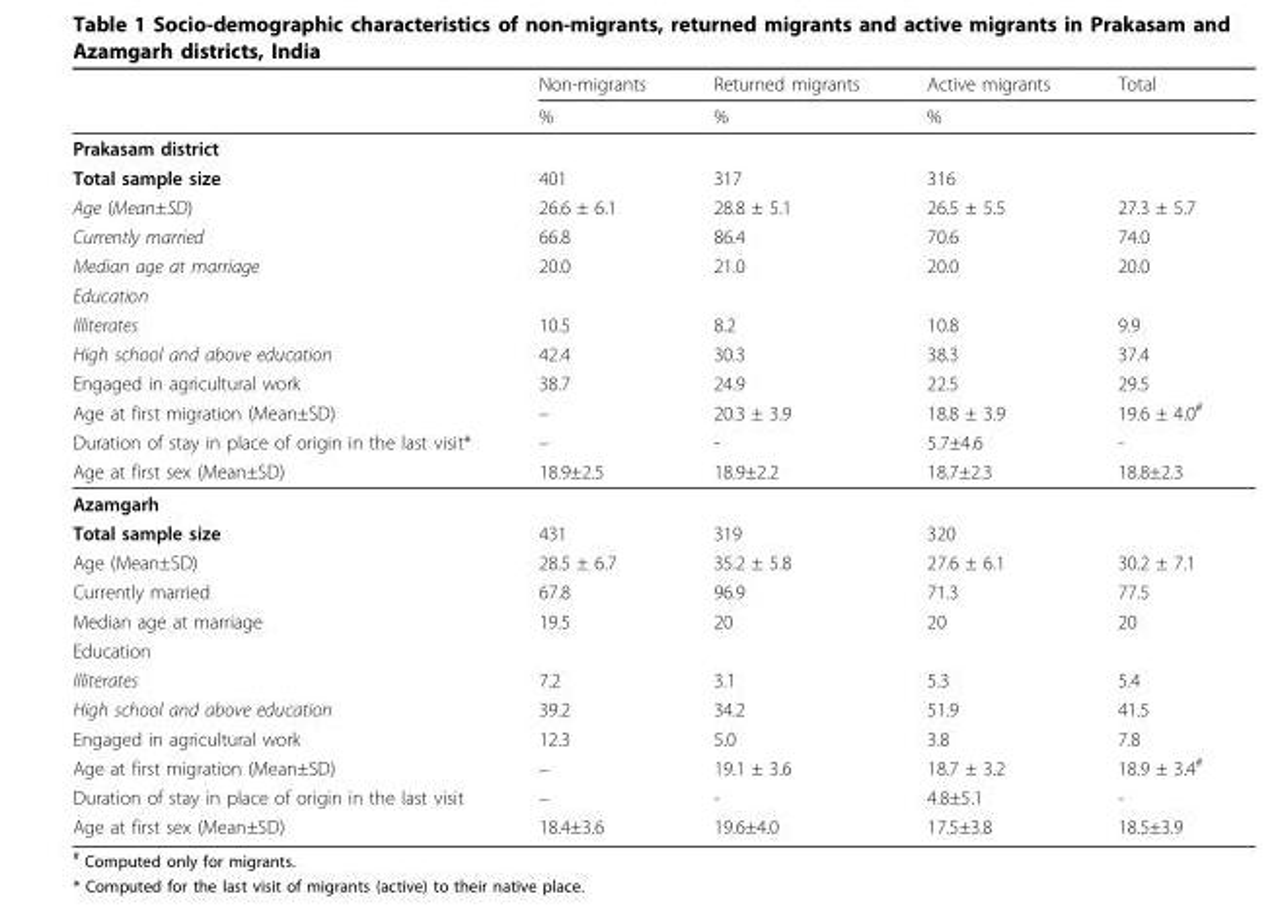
<table><thead><tr><td rowspan="2"></td><td rowspan="2">Non-migrants %</td><td rowspan="2">Returned migrants %</td><td rowspan="2">Active migrants %</td><td rowspan="2">Total</td></tr><tr></tr></thead><tbody><tr><td colspan="5">Prakasam district</td></tr><tr><td>Total sample size</td><td>401</td><td>317</td><td>316</td><td></td></tr><tr><td>Age (Mean±SD)</td><td>26.6 ± 6.1</td><td>28.8 ± 5.1</td><td>26.5 ± 5.5</td><td>27.3 ± 5.7</td></tr><tr><td>Currently married</td><td>66.8</td><td>86.4</td><td>70.6</td><td>74.0</td></tr><tr><td>Median age at marriage</td><td>20.0</td><td>21.0</td><td>20.0</td><td>20.0</td></tr><tr><td colspan="5">Education</td></tr><tr><td>Illiterates</td><td>10.5</td><td>8.2</td><td>10.8</td><td>9.9</td></tr><tr><td>High school and above education</td><td>42.4</td><td>30.3</td><td>38.3</td><td>37.4</td></tr><tr><td>Engaged in agricultural work</td><td>38.7</td><td>24.9</td><td>22.5</td><td>29.5</td></tr><tr><td>Age at first migration (Mean±SD)</td><td>–</td><td>20.3 ± 3.9</td><td>18.8 ± 3.9</td><td>19.6 ± 4.0<sup>#</sup></td></tr><tr><td>Duration of stay in place of origin in the last visit*</td><td>–</td><td>-</td><td>5.7±4.6</td><td>-</td></tr><tr><td>Age at first sex (Mean±SD)</td><td>18.9±2.5</td><td>18.9±2.2</td><td>18.7±2.3</td><td>18.8±2.3</td></tr><tr><td colspan="5">Azamgarh</td></tr><tr><td>Total sample size</td><td>431</td><td>319</td><td>320</td><td></td></tr><tr><td>Age (Mean±SD)</td><td>28.5 ± 6.7</td><td>35.2 ± 5.8</td><td>27.6 ± 6.1</td><td>30.2 ± 7.1</td></tr><tr><td>Currently married</td><td>67.8</td><td>96.9</td><td>71.3</td><td>77.5</td></tr><tr><td>Median age at marriage</td><td>19.5</td><td>20</td><td>20</td><td>20</td></tr><tr><td colspan="5">Education</td></tr><tr><td>Illiterates</td><td>7.2</td><td>3.1</td><td>5.3</td><td>5.4</td></tr><tr><td>High school and above education</td><td>39.2</td><td>34.2</td><td>51.9</td><td>41.5</td></tr><tr><td>Engaged in agricultural work</td><td>12.3</td><td>5.0</td><td>3.8</td><td>7.8</td></tr><tr><td>Age at first migration (Mean±SD)</td><td>–</td><td>19.1 ± 3.6</td><td>18.7 ± 3.2</td><td>18.9 ± 3.4<sup>#</sup></td></tr><tr><td>Duration of stay in place of origin in the last visit</td><td>–</td><td>-</td><td>4.8±5.1</td><td>-</td></tr><tr><td>Age at first sex (Mean±SD)</td><td>18.4±3.6</td><td>19.6±4.0</td><td>17.5±3.8</td><td>18.5±3.9</td></tr></tbody></table>